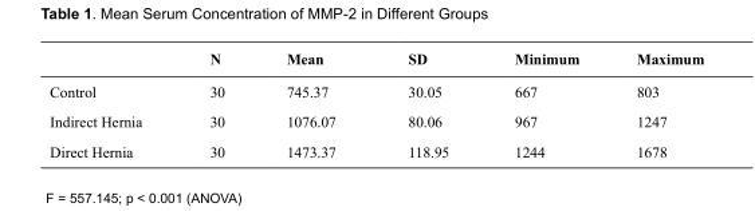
<table><thead><tr><td></td><td>N</td><td>Mean</td><td>SD</td><td>Minimum</td><td>Maximum</td></tr></thead><tbody><tr><td>Control</td><td>30</td><td>745.37</td><td>30.05</td><td>667</td><td>803</td></tr><tr><td>Indirect Hernia</td><td>30</td><td>1076.07</td><td>80.06</td><td>967</td><td>1247</td></tr><tr><td>Direct Hernia</td><td>30</td><td>1473.37</td><td>118.95</td><td>1244</td><td>1678</td></tr></tbody></table>